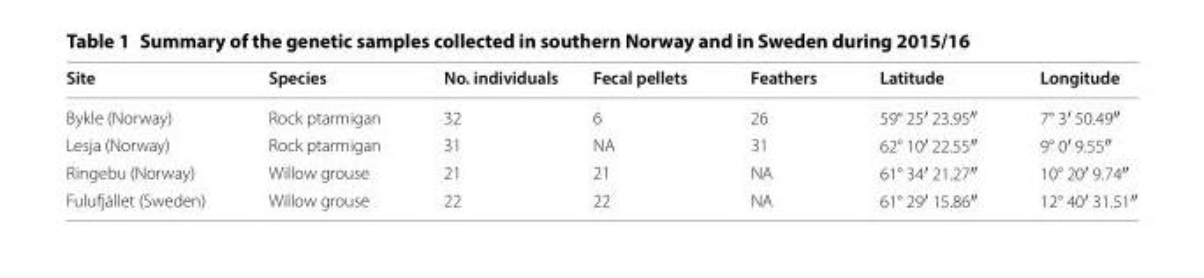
<table><thead><tr><td>Site</td><td>Species</td><td>No. individuals</td><td>Fecal pellets</td><td>Feathers</td><td>Latitude</td><td>Longitude</td></tr></thead><tbody><tr><td>Bykle (Norway)</td><td>Rock ptarmigan</td><td>32</td><td>6</td><td>26</td><td>59° 25′ 23.95″</td><td>7° 3′ 50.49″</td></tr><tr><td>Lesja (Norway)</td><td>Rock ptarmigan</td><td>31</td><td>NA</td><td>31</td><td>62° 10′ 22.55″</td><td>9° 0′ 9.55″</td></tr><tr><td>Ringebu (Norway)</td><td>Willow grouse</td><td>21</td><td>21</td><td>NA</td><td>61° 34′ 21.27″</td><td>10° 20′ 9.74″</td></tr><tr><td>Fulufjället (Sweden)</td><td>Willow grouse</td><td>22</td><td>22</td><td>NA</td><td>61° 29′ 15.86″</td><td>12° 40′ 31.51″</td></tr></tbody></table>